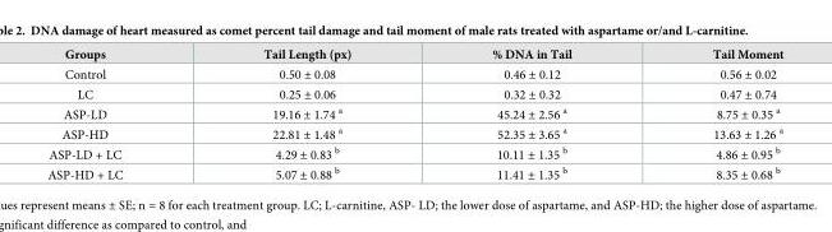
<table><thead><tr><td>Groups</td><td>Tail Length (px)</td><td>% DNA in Tail</td><td>Tail Moment</td></tr></thead><tbody><tr><td>Control</td><td>0.50 ± 0.08</td><td>0.46 ± 0.12</td><td>0.56 ± 0.02</td></tr><tr><td>LC</td><td>0.25 ± 0.06</td><td>0.32 ± 0.32</td><td>0.47 ± 0.74</td></tr><tr><td>ASP-LD</td><td>19.16 ± 1.74 <sup>a</sup></td><td>45.24 ± 2.56 <sup>a</sup></td><td>8.75 ± 0.35 <sup>a</sup></td></tr><tr><td>ASP-HD</td><td>22.81 ± 1.48 <sup>a</sup></td><td>52.35 ± 3.65 <sup>a</sup></td><td>13.63 ± 1.26 <sup>a</sup></td></tr><tr><td>ASP-LD + LC</td><td>4.29 ± 0.83 <sup>b</sup></td><td>10.11 ± 1.35 <sup>b</sup></td><td>4.86 ± 0.95 <sup>b</sup></td></tr><tr><td>ASP-HD + LC</td><td>5.07 ± 0.88 <sup>b</sup></td><td>11.41 ± 1.35 <sup>b</sup></td><td>8.35 ± 0.68 <sup>b</sup></td></tr></tbody></table>